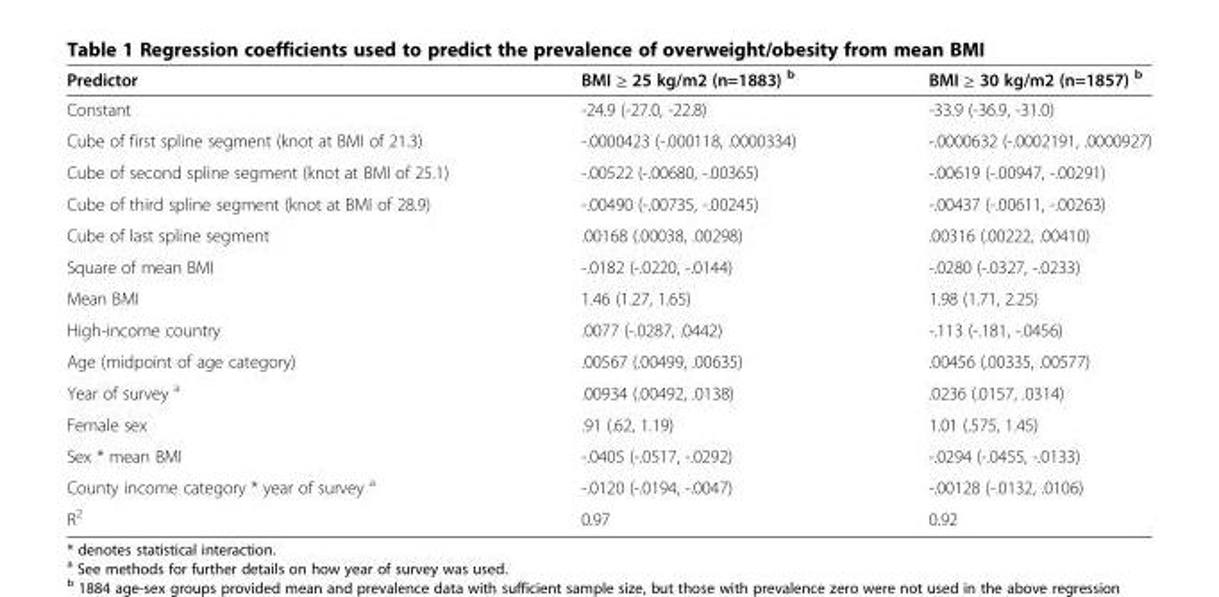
<table><thead><tr><td>Predictor</td><td>BMI ≥ 25 kg/m2 (n=1883) <sup>b</sup></td><td>BMI ≥ 30 kg/m2 (n=1857) <sup>b</sup></td></tr></thead><tbody><tr><td>Constant</td><td>-24.9 (-27.0, -22.8)</td><td>-33.9 (-36.9, -31.0)</td></tr><tr><td>Cube of first spline segment (knot at BMI of 21.3)</td><td>-.0000423 (-.000118, .0000334)</td><td>-.0000632 (-.0002191, .0000927)</td></tr><tr><td>Cube of second spline segment (knot at BMI of 25.1)</td><td>-.00522 (-.00680, -.00365)</td><td>-.00619 (-.00947, -.00291)</td></tr><tr><td>Cube of third spline segment (knot at BMI of 28.9)</td><td>-.00490 (-.00735, -.00245)</td><td>-.00437 (-.00611, -.00263)</td></tr><tr><td>Cube of last spline segment</td><td>.00168 (.00038, .00298)</td><td>.00316 (.00222, .00410)</td></tr><tr><td>Square of mean BMI</td><td>-.0182 (-.0220, -.0144)</td><td>-.0280 (-.0327, -.0233)</td></tr><tr><td>Mean BMI</td><td>1.46 (1.27, 1.65)</td><td>1.98 (1.71, 2.25)</td></tr><tr><td>High-income country</td><td>.0077 (-.0287, .0442)</td><td>-.113 (-.181, -.0456)</td></tr><tr><td>Age (midpoint of age category)</td><td>.00567 (.00499, .00635)</td><td>.00456 (.00335, .00577)</td></tr><tr><td>Year of survey <sup>a</sup></td><td>.00934 (.00492, .0138)</td><td>.0236 (.0157, .0314)</td></tr><tr><td>Female sex</td><td>.91 (.62, 1.19)</td><td>1.01 (.575, 1.45)</td></tr><tr><td>Sex * mean BMI</td><td>-.0405 (-.0517, -.0292)</td><td>-.0294 (-.0455, -.0133)</td></tr><tr><td>County income category * year of survey <sup>a</sup></td><td>-.0120 (-.0194, -.0047)</td><td>-.00128 (-.0132, .0106)</td></tr><tr><td>R<sup>2</sup></td><td>0.97</td><td>0.92</td></tr></tbody></table>